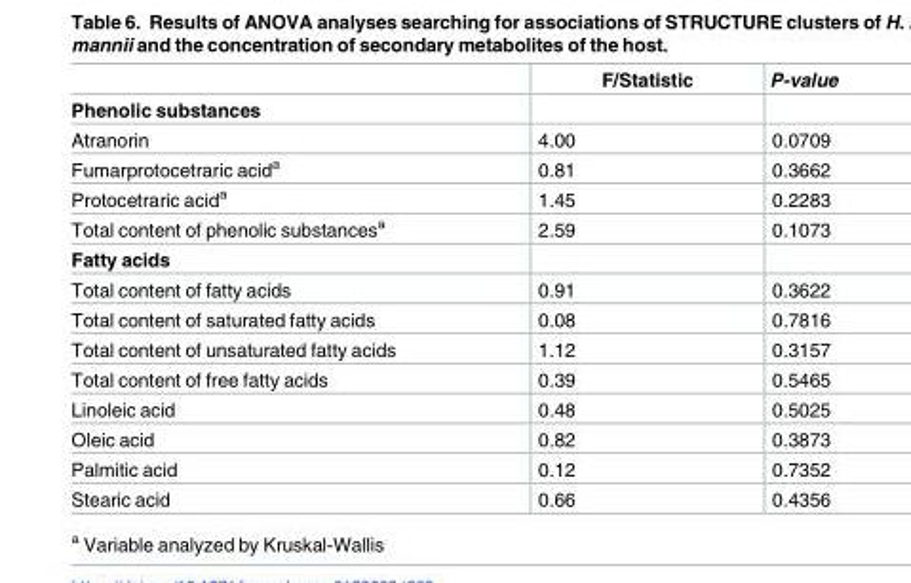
<table><thead><tr><td></td><td>F/Statistic</td><td>P-value</td></tr></thead><tbody><tr><td colspan="3">Phenolic substances</td></tr><tr><td>Atranorin</td><td>4.00</td><td>0.0709</td></tr><tr><td>Fumarprotocetraric acid<sup>a</sup></td><td>0.81</td><td>0.3662</td></tr><tr><td>Protocetraric acid<sup>a</sup></td><td>1.45</td><td>0.2283</td></tr><tr><td>Total content of phenolic substances<sup>a</sup></td><td>2.59</td><td>0.1073</td></tr><tr><td colspan="3">Fatty acids</td></tr><tr><td>Total content of fatty acids</td><td>0.91</td><td>0.3622</td></tr><tr><td>Total content of saturated fatty acids</td><td>0.08</td><td>0.7816</td></tr><tr><td>Total content of unsaturated fatty acids</td><td>1.12</td><td>0.3157</td></tr><tr><td>Total content of free fatty acids</td><td>0.39</td><td>0.5465</td></tr><tr><td>Linoleic acid</td><td>0.48</td><td>0.5025</td></tr><tr><td>Oleic acid</td><td>0.82</td><td>0.3873</td></tr><tr><td>Palmitic acid</td><td>0.12</td><td>0.7352</td></tr><tr><td>Stearic acid</td><td>0.66</td><td>0.4356</td></tr></tbody></table>